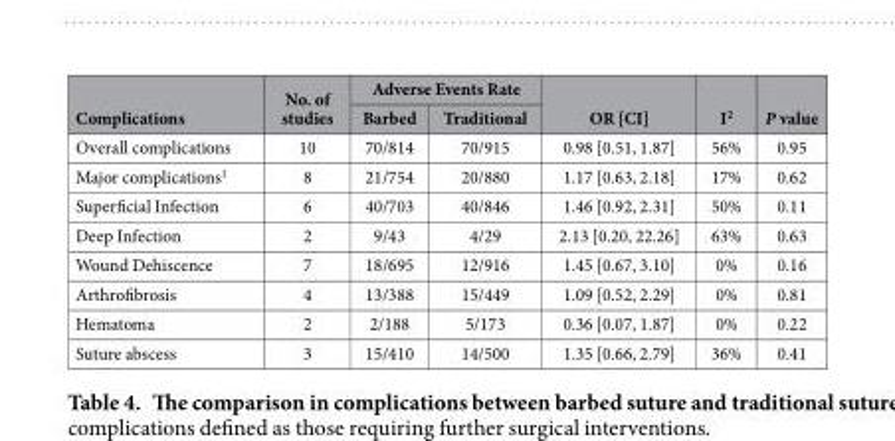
<table><thead><tr><td rowspan="2">Complications</td><td rowspan="2">No. of studies</td><td colspan="2">Adverse Events Rate</td><td rowspan="2">OR [CI]</td><td rowspan="2">I<sup>2</sup></td><td rowspan="2">P value</td></tr><tr><td>Barbed</td><td>Traditional</td></tr></thead><tbody><tr><td>Overall complications</td><td>10</td><td>70/814</td><td>70/915</td><td>0.98 [0.51, 1.87]</td><td>56%</td><td>0.95</td></tr><tr><td>Major complications<sup>1</sup></td><td>8</td><td>21/754</td><td>20/880</td><td>1.17 [0.63, 2.18]</td><td>17%</td><td>0.62</td></tr><tr><td>Superficial Infection</td><td>6</td><td>40/703</td><td>40/846</td><td>1.46 [0.92, 2.31]</td><td>50%</td><td>0.11</td></tr><tr><td>Deep Infection</td><td>2</td><td>9/43</td><td>4/29</td><td>2.13 [0.20, 22.26]</td><td>63%</td><td>0.63</td></tr><tr><td>Wound Dehiscence</td><td>7</td><td>18/695</td><td>12/916</td><td>1.45 [0.67, 3.10]</td><td>0%</td><td>0.16</td></tr><tr><td>Arthrofibrosis</td><td>4</td><td>13/388</td><td>15/449</td><td>1.09 [0.52, 2.29]</td><td>0%</td><td>0.81</td></tr><tr><td>Hematoma</td><td>2</td><td>2/188</td><td>5/173</td><td>0.36 [0.07, 1.87]</td><td>0%</td><td>0.22</td></tr><tr><td>Suture abscess</td><td>3</td><td>15/410</td><td>14/500</td><td>1.35 [0.66, 2.79]</td><td>36%</td><td>0.41</td></tr></tbody></table>